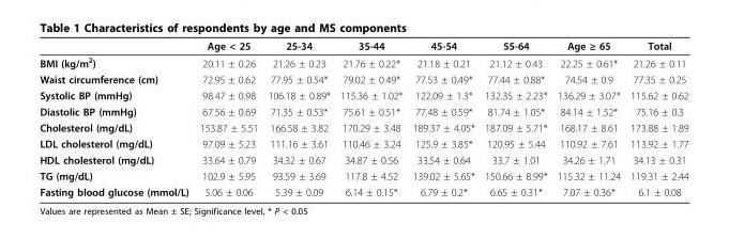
<table><thead><tr><td></td><td>Age &lt; 25</td><td>25-34</td><td>35-44</td><td>45-54</td><td>55-64</td><td>Age ≥ 65</td><td>Total</td></tr></thead><tbody><tr><td>BMI (kg/m<sup>2</sup>)</td><td>20.11 ± 0.26</td><td>21.26 ± 0.23</td><td>21.76 ± 0.22*</td><td>21.18 ± 0.21</td><td>21.12 ± 0.43</td><td>22.25 ± 0.61*</td><td>21.26 ± 0.11</td></tr><tr><td>Waist circumference (cm)</td><td>72.95 ± 0.62</td><td>77.95 ± 0.54*</td><td>79.02 ± 0.49*</td><td>77.53 ± 0.49*</td><td>77.44 ± 0.88*</td><td>74.54 ± 0.9</td><td>77.35 ± 0.25</td></tr><tr><td>Systolic BP (mmHg)</td><td>98.47 ± 0.98</td><td>106.18 ± 0.89*</td><td>115.36 ± 1.02*</td><td>122.09 ± 1.3*</td><td>132.35 ± 2.23*</td><td>136.29 ± 3.07*</td><td>115.62 ± 0.62</td></tr><tr><td>Diastolic BP (mmHg)</td><td>67.56 ± 0.69</td><td>71.35 ± 0.53*</td><td>75.61 ± 0.51*</td><td>77.48 ± 0.59*</td><td>81.74 ± 1.05*</td><td>84.14 ± 1.52*</td><td>75.16 ± 0.3</td></tr><tr><td>Cholesterol (mg/dL)</td><td>153.87 ± 5.51</td><td>166.58 ± 3.82</td><td>170.29 ± 3.48</td><td>189.37 ± 4.05*</td><td>187.09 ± 5.71*</td><td>168.17 ± 8.61</td><td>173.88 ± 1.89</td></tr><tr><td>LDL cholesterol (mg/dL)</td><td>97.09 ± 5.23</td><td>111.16 ± 3.61</td><td>110.46 ± 3.24</td><td>125.9 ± 3.85*</td><td>120.95 ± 5.44</td><td>110.92 ± 7.61</td><td>113.92 ± 1.77</td></tr><tr><td>HDL cholesterol (mg/dL)</td><td>33.64 ± 0.79</td><td>34.32 ± 0.67</td><td>34.87 ± 0.56</td><td>33.54 ± 0.64</td><td>33.7 ± 1.01</td><td>34.26 ± 1.71</td><td>34.13 ± 0.31</td></tr><tr><td>TG (mg/dL)</td><td>102.9 ± 5.95</td><td>93.59 ± 3.69</td><td>117.8 ± 4.52</td><td>139.02 ± 5.65*</td><td>150.66 ± 8.99*</td><td>115.32 ± 11.24</td><td>119.31 ± 2.44</td></tr><tr><td>Fasting blood glucose (mmol/L)</td><td>5.06 ± 0.06</td><td>5.39 ± 0.09</td><td>6.14 ± 0.15*</td><td>6.79 ± 0.2*</td><td>6.65 ± 0.31*</td><td>7.07 ± 0.36*</td><td>6.1 ± 0.08</td></tr></tbody></table>